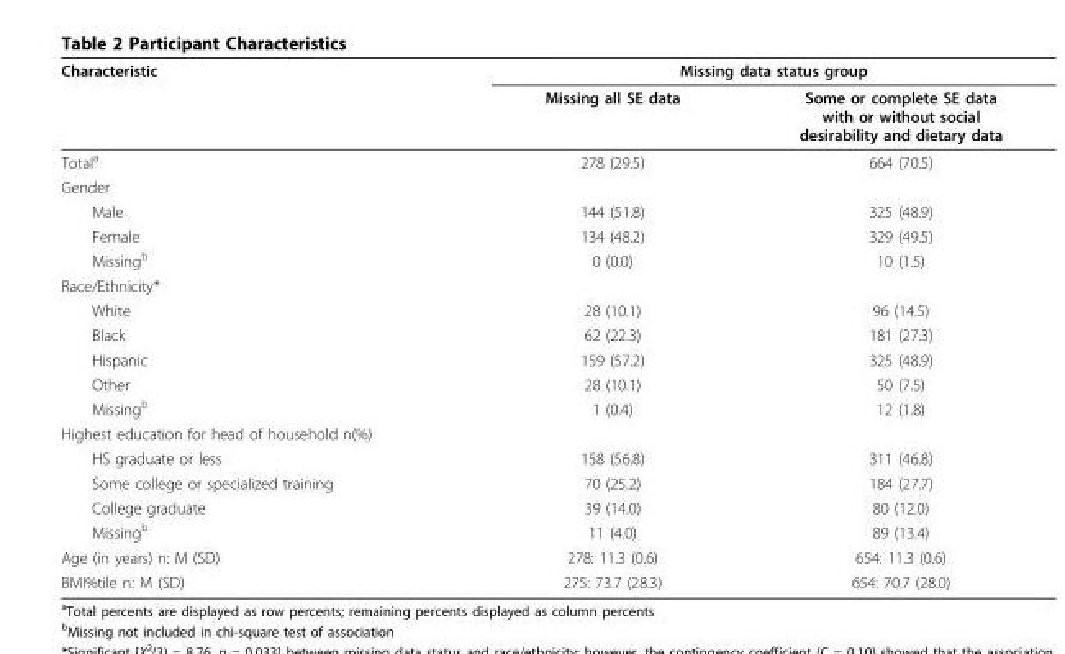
<table><thead><tr><td rowspan="2">Characteristic</td><td colspan="2">Missing data status group</td></tr><tr><td>Missing all SE data</td><td>Some or complete SE data with or without social desirability and dietary data</td></tr></thead><tbody><tr><td>Total<sup>a</sup></td><td>278 (29.5)</td><td>664 (70.5)</td></tr><tr><td colspan="3">Gender</td></tr><tr><td>Male</td><td>144 (51.8)</td><td>325 (48.9)</td></tr><tr><td>Female</td><td>134 (48.2)</td><td>329 (49.5)</td></tr><tr><td>Missing<sup>b</sup></td><td>0 (0.0)</td><td>10 (1.5)</td></tr><tr><td colspan="3">Race/Ethnicity*</td></tr><tr><td>White</td><td>28 (10.1)</td><td>96 (14.5)</td></tr><tr><td>Black</td><td>62 (22.3)</td><td>181 (27.3)</td></tr><tr><td>Hispanic</td><td>159 (57.2)</td><td>325 (48.9)</td></tr><tr><td>Other</td><td>28 (10.1)</td><td>50 (7.5)</td></tr><tr><td>Missing<sup>b</sup></td><td>1 (0.4)</td><td>12 (1.8)</td></tr><tr><td colspan="3">Highest education for head of household n(%)</td></tr><tr><td>HS graduate or less</td><td>158 (56.8)</td><td>311 (46.8)</td></tr><tr><td>Some college or specialized training</td><td>70 (25.2)</td><td>184 (27.7)</td></tr><tr><td>College graduate</td><td>39 (14.0)</td><td>80 (12.0)</td></tr><tr><td>Missing<sup>b</sup></td><td>11 (4.0)</td><td>89 (13.4)</td></tr><tr><td>Age (in years) n: M (SD)</td><td>278: 11.3 (0.6)</td><td>654: 11.3 (0.6)</td></tr><tr><td>BMI%tile n: M (SD)</td><td>275: 73.7 (28.3)</td><td>654: 70.7 (28.0)</td></tr></tbody></table>